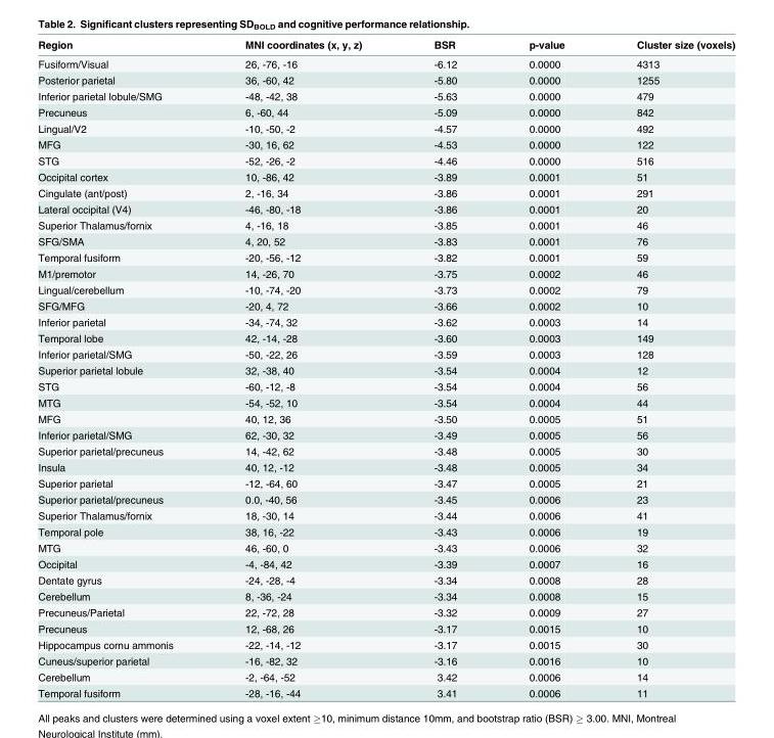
<table><thead><tr><td>Region</td><td>MNI coordinates (x, y, z)</td><td>BSR</td><td>p-value</td><td>Cluster size (voxels)</td></tr></thead><tbody><tr><td>Fusiform/Visual</td><td>26, -76, -16</td><td>-6.12</td><td>0.0000</td><td>4313</td></tr><tr><td>Posterior parietal</td><td>36, -60, 42</td><td>-5.80</td><td>0.0000</td><td>1255</td></tr><tr><td>Inferior parietal lobule/SMG</td><td>-48, -42, 38</td><td>-5.63</td><td>0.0000</td><td>479</td></tr><tr><td>Precuneus</td><td>6, -60, 44</td><td>-5.09</td><td>0.0000</td><td>842</td></tr><tr><td>Lingual/V2</td><td>-10, -50, -2</td><td>-4.57</td><td>0.0000</td><td>492</td></tr><tr><td>MFG</td><td>-30, 16, 62</td><td>-4.53</td><td>0.0000</td><td>122</td></tr><tr><td>STG</td><td>-52, -26, -2</td><td>-4.46</td><td>0.0000</td><td>516</td></tr><tr><td>Occipital cortex</td><td>10, -86, 42</td><td>-3.89</td><td>0.0001</td><td>51</td></tr><tr><td>Cingulate (ant/post)</td><td>2, -16, 34</td><td>-3.86</td><td>0.0001</td><td>291</td></tr><tr><td>Lateral occipital (V4)</td><td>-46, -80, -18</td><td>-3.86</td><td>0.0001</td><td>20</td></tr><tr><td>Superior Thalamus/fornix</td><td>4, -16, 18</td><td>-3.85</td><td>0.0001</td><td>46</td></tr><tr><td>SFG/SMA</td><td>4, 20, 52</td><td>-3.83</td><td>0.0001</td><td>76</td></tr><tr><td>Temporal fusiform</td><td>-20, -56, -12</td><td>-3.82</td><td>0.0001</td><td>59</td></tr><tr><td>M1/premotor</td><td>14, -26, 70</td><td>-3.75</td><td>0.0002</td><td>46</td></tr><tr><td>Lingual/cerebellum</td><td>-10, -74, -20</td><td>-3.73</td><td>0.0002</td><td>79</td></tr><tr><td>SFG/MFG</td><td>-20, 4, 72</td><td>-3.66</td><td>0.0002</td><td>10</td></tr><tr><td>Inferior parietal</td><td>-34, -74, 32</td><td>-3.62</td><td>0.0003</td><td>14</td></tr><tr><td>Temporal lobe</td><td>42, -14, -28</td><td>-3.60</td><td>0.0003</td><td>149</td></tr><tr><td>Inferior parietal/SMG</td><td>-50, -22, 26</td><td>-3.59</td><td>0.0003</td><td>128</td></tr><tr><td>Superior parietal lobule</td><td>32, -38, 40</td><td>-3.54</td><td>0.0004</td><td>12</td></tr><tr><td>STG</td><td>-60, -12, -8</td><td>-3.54</td><td>0.0004</td><td>56</td></tr><tr><td>MTG</td><td>-54, -52, 10</td><td>-3.54</td><td>0.0004</td><td>44</td></tr><tr><td>MFG</td><td>40, 12, 36</td><td>-3.50</td><td>0.0005</td><td>51</td></tr><tr><td>Inferior parietal/SMG</td><td>62, -30, 32</td><td>-3.49</td><td>0.0005</td><td>56</td></tr><tr><td>Superior parietal/precuneus</td><td>14, -42, 62</td><td>-3.48</td><td>0.0005</td><td>30</td></tr><tr><td>Insula</td><td>40, 12, -12</td><td>-3.48</td><td>0.0005</td><td>34</td></tr><tr><td>Superior parietal</td><td>-12, -64, 60</td><td>-3.47</td><td>0.0005</td><td>21</td></tr><tr><td>Superior parietal/precuneus</td><td>0.0, -40, 56</td><td>-3.45</td><td>0.0006</td><td>23</td></tr><tr><td>Superior Thalamus/fornix</td><td>18, -30, 14</td><td>-3.44</td><td>0.0006</td><td>41</td></tr><tr><td>Temporal pole</td><td>38, 16, -22</td><td>-3.43</td><td>0.0006</td><td>19</td></tr><tr><td>MTG</td><td>46, -60, 0</td><td>-3.43</td><td>0.0006</td><td>32</td></tr><tr><td>Occipital</td><td>-4, -84, 42</td><td>-3.39</td><td>0.0007</td><td>16</td></tr><tr><td>Dentate gyrus</td><td>-24, -28, -4</td><td>-3.34</td><td>0.0008</td><td>28</td></tr><tr><td>Cerebellum</td><td>8, -36, -24</td><td>-3.34</td><td>0.0008</td><td>15</td></tr><tr><td>Precuneus/Parietal</td><td>22, -72, 28</td><td>-3.32</td><td>0.0009</td><td>27</td></tr><tr><td>Precuneus</td><td>12, -68, 26</td><td>-3.17</td><td>0.0015</td><td>10</td></tr><tr><td>Hippocampus cornu ammonis</td><td>-22, -14, -12</td><td>-3.17</td><td>0.0015</td><td>30</td></tr><tr><td>Cuneus/superior parietal</td><td>-16, -82, 32</td><td>-3.16</td><td>0.0016</td><td>10</td></tr><tr><td>Cerebellum</td><td>-2, -64, -52</td><td>3.42</td><td>0.0006</td><td>14</td></tr><tr><td>Temporal fusiform</td><td>-28, -16, -44</td><td>3.41</td><td>0.0006</td><td>11</td></tr></tbody></table>